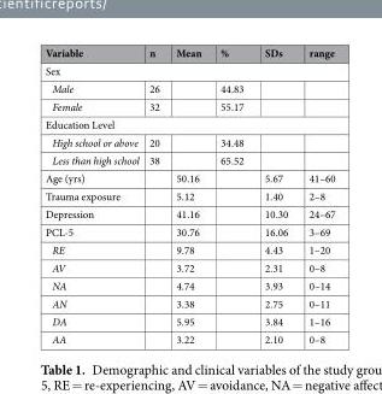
<table><thead><tr><td>Variable</td><td>n</td><td>Mean</td><td>%</td><td>SDs</td><td>range</td></tr></thead><tbody><tr><td colspan="6">Sex</td></tr><tr><td>Male</td><td>26</td><td></td><td>44.83</td><td></td><td></td></tr><tr><td>Female</td><td>32</td><td></td><td>55.17</td><td></td><td></td></tr><tr><td colspan="6">Education Level</td></tr><tr><td>High school or above</td><td>20</td><td></td><td>34.48</td><td></td><td></td></tr><tr><td>Less than high school</td><td>38</td><td></td><td>65.52</td><td></td><td></td></tr><tr><td>Age (yrs)</td><td></td><td>50.16</td><td></td><td>5.67</td><td>41–60</td></tr><tr><td>Trauma exposure</td><td></td><td>5.12</td><td></td><td>1.40</td><td>2–8</td></tr><tr><td>Depression</td><td></td><td>41.16</td><td></td><td>10.30</td><td>24–67</td></tr><tr><td>PCL-5</td><td></td><td>30.76</td><td></td><td>16.06</td><td>3–69</td></tr><tr><td>RE</td><td></td><td>9.78</td><td></td><td>4.43</td><td>1–20</td></tr><tr><td>AV</td><td></td><td>3.72</td><td></td><td>2.31</td><td>0–8</td></tr><tr><td>NA</td><td></td><td>4.74</td><td></td><td>3.93</td><td>0–14</td></tr><tr><td>AN</td><td></td><td>3.38</td><td></td><td>2.75</td><td>0–11</td></tr><tr><td>DA</td><td></td><td>5.95</td><td></td><td>3.84</td><td>1–16</td></tr><tr><td>AA</td><td></td><td>3.22</td><td></td><td>2.10</td><td>0–8</td></tr></tbody></table>